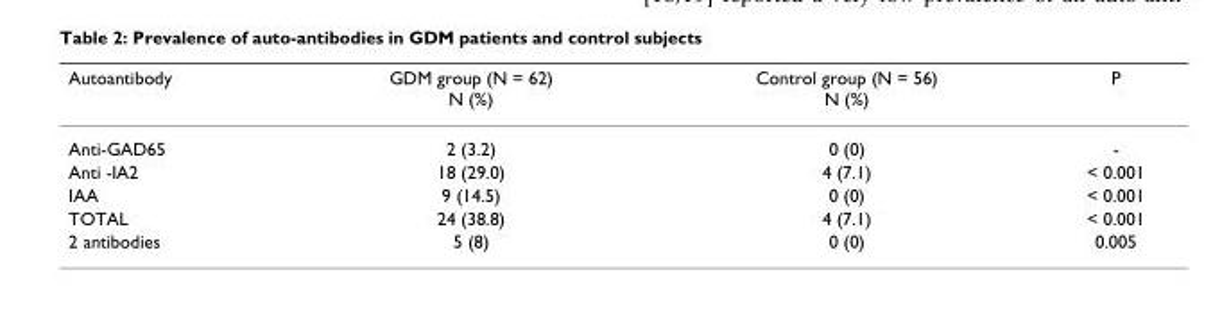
<table><thead><tr><td>Autoantibody</td><td>GDM group (N = 62) N (%)</td><td>Control group (N = 56) N (%)</td><td>P</td></tr></thead><tbody><tr><td>Anti-GAD65</td><td>2 (3.2)</td><td>0 (0)</td><td>-</td></tr><tr><td>Anti -IA2</td><td>18 (29.0)</td><td>4 (7.1)</td><td>&lt; 0.001</td></tr><tr><td>IAA</td><td>9 (14.5)</td><td>0 (0)</td><td>&lt; 0.001</td></tr><tr><td>TOTAL</td><td>24 (38.8)</td><td>4 (7.1)</td><td>&lt; 0.001</td></tr><tr><td>2 antibodies</td><td>5 (8)</td><td>0 (0)</td><td>0.005</td></tr></tbody></table>